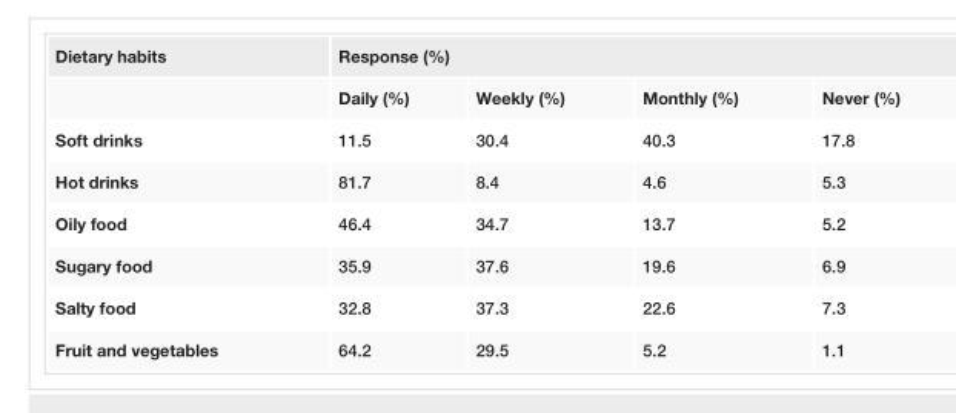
<table><tbody><tr><td rowspan="2">Dietary habits</td><td colspan="4">Response (%)</td></tr><tr><td>Daily (%)</td><td>Weekly (%)</td><td>Monthly (%)</td><td>Never (%)</td></tr><tr><td>Soft drinks</td><td>11.5</td><td>30.4</td><td>40.3</td><td>17.8</td></tr><tr><td>Hot drinks</td><td>81.7</td><td>8.4</td><td>4.6</td><td>5.3</td></tr><tr><td>Oily food</td><td>46.4</td><td>34.7</td><td>13.7</td><td>5.2</td></tr><tr><td>Sugary food</td><td>35.9</td><td>37.6</td><td>19.6</td><td>6.9</td></tr><tr><td>Salty food</td><td>32.8</td><td>37.3</td><td>22.6</td><td>7.3</td></tr><tr><td>Fruit and vegetables</td><td>64.2</td><td>29.5</td><td>5.2</td><td>1.1</td></tr></tbody></table>